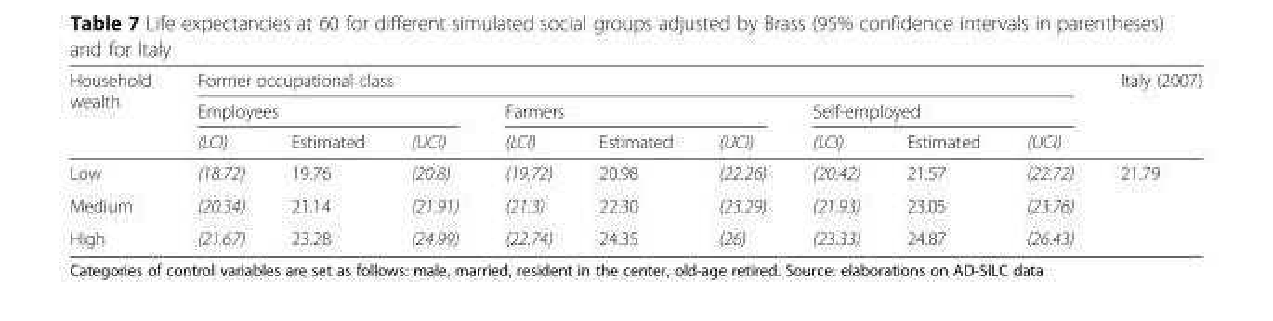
<table><thead><tr><td rowspan="3">Household wealth</td><td colspan="9">Former occupational class</td><td rowspan="3">Italy (2007)</td></tr><tr><td colspan="3">Employees</td><td colspan="3">Farmers</td><td colspan="3">Self-employed</td></tr><tr><td>(LCI)</td><td>Estimated</td><td>(UCI)</td><td>(LCI)</td><td>Estimated</td><td>(UCI)</td><td>(LCI)</td><td>Estimated</td><td>(UCI)</td></tr></thead><tbody><tr><td>Low</td><td>(18.72)</td><td>19.76</td><td>(20.8)</td><td>(19.72)</td><td>20.98</td><td>(22.26)</td><td>(20.42)</td><td>21.57</td><td>(22.72)</td><td rowspan="3">21.79</td></tr><tr><td>Medium</td><td>(20.34)</td><td>21.14</td><td>(21.91)</td><td>(21.3)</td><td>22.30</td><td>(23.29)</td><td>(21.93)</td><td>23.05</td><td>(23.76)</td></tr><tr><td>High</td><td>(21.67)</td><td>23.28</td><td>(24.99)</td><td>(22.74)</td><td>24.35</td><td>(26)</td><td>(23.33)</td><td>24.87</td><td>(26.43)</td></tr></tbody></table>